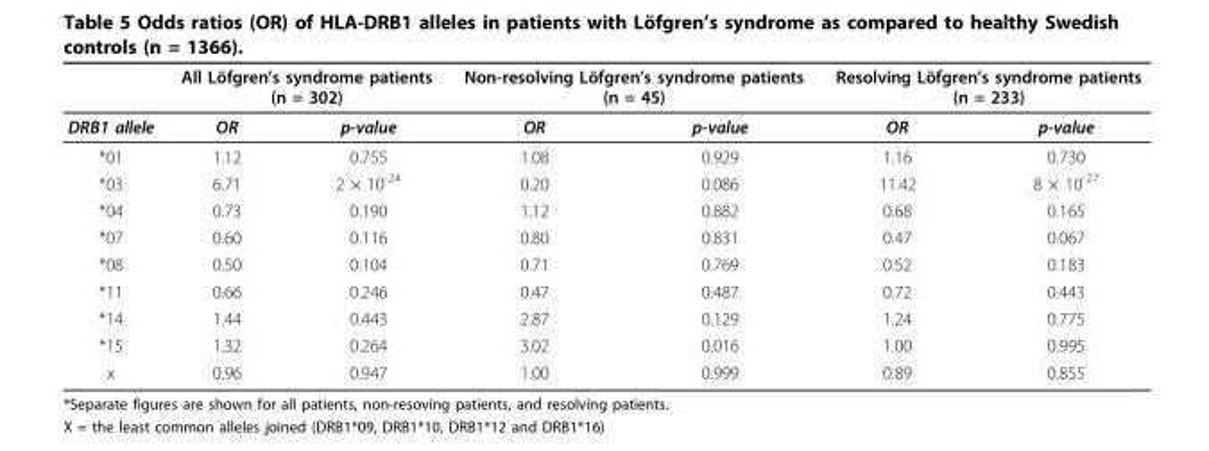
<table><thead><tr><td rowspan="2">DRB1 allele</td><td colspan="2">All Löfgren’s syndrome patients (n = 302)</td><td colspan="2">Non-resolving Löfgren’s syndrome patients (n = 45)</td><td colspan="2">Resolving Löfgren’s syndrome patients (n = 233)</td></tr><tr><td>OR</td><td>p-value</td><td>OR</td><td>p-value</td><td>OR</td><td>p-value</td></tr></thead><tbody><tr><td>*01</td><td>1.12</td><td>0.755</td><td>1.08</td><td>0.929</td><td>1.16</td><td>0.730</td></tr><tr><td>*03</td><td>6.71</td><td>2 × 10<sup>-24</sup></td><td>0.20</td><td>0.086</td><td>11.42</td><td>8 × 10<sup>-27</sup></td></tr><tr><td>*04</td><td>0.73</td><td>0.190</td><td>1.12</td><td>0.882</td><td>0.68</td><td>0.165</td></tr><tr><td>*07</td><td>0.60</td><td>0.116</td><td>0.80</td><td>0.831</td><td>0.47</td><td>0.067</td></tr><tr><td>*08</td><td>0.50</td><td>0.104</td><td>0.71</td><td>0.769</td><td>0.52</td><td>0.183</td></tr><tr><td>*11</td><td>0.66</td><td>0.246</td><td>0.47</td><td>0.487</td><td>0.72</td><td>0.443</td></tr><tr><td>*14</td><td>1.44</td><td>0.443</td><td>2.87</td><td>0.129</td><td>1.24</td><td>0.775</td></tr><tr><td>*15</td><td>1.32</td><td>0.264</td><td>3.02</td><td>0.016</td><td>1.00</td><td>0.995</td></tr><tr><td>x</td><td>0.96</td><td>0.947</td><td>1.00</td><td>0.999</td><td>0.89</td><td>0.855</td></tr></tbody></table>